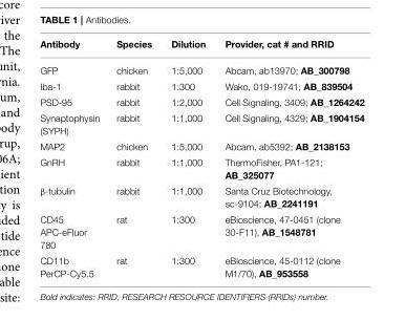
<table><thead><tr><td>Antibody</td><td>Species</td><td>Dilution</td><td>Provider, cat # and RRID</td></tr></thead><tbody><tr><td>GFP</td><td>chicken</td><td>1:5,000</td><td>Abcam, ab13970; AB_300798</td></tr><tr><td>Iba-1</td><td>rabbit</td><td>1:300</td><td>Wako, 019-19741; AB_839504</td></tr><tr><td>PSD-95</td><td>rabbit</td><td>1:2,000</td><td>Cell Signaling, 3409; AB_1264242</td></tr><tr><td>Synaptophysin (SYPH)</td><td>rabbit</td><td>1:1,000</td><td>Cell Signaling, 4329; AB_1904154</td></tr><tr><td>MAP2</td><td>chicken</td><td>1:5,000</td><td>Abcam, ab5392; AB_2138153</td></tr><tr><td>GnRH</td><td>rabbit</td><td>1:1,000</td><td>ThermoFisher, PA1-121; AB_325077</td></tr><tr><td>β-tubulin</td><td>rabbit</td><td>1:1,000</td><td>Santa Cruz Biotechnology, sc-9104; AB_2241191</td></tr><tr><td>CD45 APC-eFluor 780</td><td>rat</td><td>1:300</td><td>eBioscience, 47-0451 (clone 30-F11), AB_1548781</td></tr><tr><td>CD11b PerCP-Cy5.5</td><td>rat</td><td>1:300</td><td>eBioscience, 45-0112 (clone M1/70), AB_953558</td></tr></tbody></table>